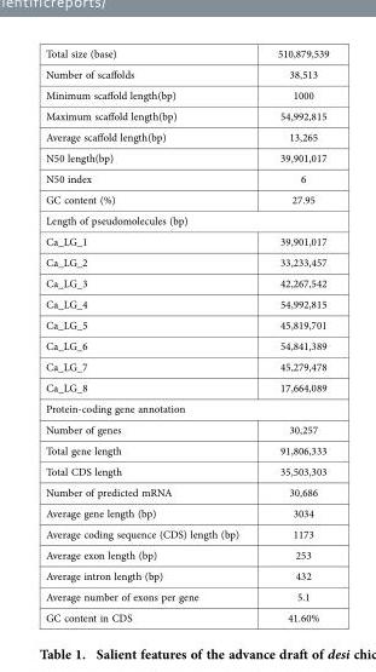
<table><tbody><tr><td>Total size (base)</td><td>510,879,539</td></tr><tr><td>Number of scaffolds</td><td>38,513</td></tr><tr><td>Minimum scaffold length(bp)</td><td>1000</td></tr><tr><td>Maximum scaffold length(bp)</td><td>54,992,815</td></tr><tr><td>Average scaffold length(bp)</td><td>13,265</td></tr><tr><td>N50 length(bp)</td><td>39,901,017</td></tr><tr><td>N50 index</td><td>6</td></tr><tr><td>GC content (%)</td><td>27.95</td></tr><tr><td colspan="2">Length of pseudomolecules (bp)</td></tr><tr><td>Ca_LG_1</td><td>39,901,017</td></tr><tr><td>Ca_LG_2</td><td>33,233,457</td></tr><tr><td>Ca_LG_3</td><td>42,267,542</td></tr><tr><td>Ca_LG_4</td><td>54,992,815</td></tr><tr><td>Ca_LG_5</td><td>45,819,701</td></tr><tr><td>Ca_LG_6</td><td>54,841,389</td></tr><tr><td>Ca_LG_7</td><td>45,279,478</td></tr><tr><td>Ca_LG_8</td><td>17,664,089</td></tr><tr><td colspan="2">Protein-coding gene annotation</td></tr><tr><td>Number of genes</td><td>30,257</td></tr><tr><td>Total gene length</td><td>91,806,333</td></tr><tr><td>Total CDS length</td><td>35,503,303</td></tr><tr><td>Number of predicted mRNA</td><td>30,686</td></tr><tr><td>Average gene length (bp)</td><td>3034</td></tr><tr><td>Average coding sequence (CDS) length (bp)</td><td>1173</td></tr><tr><td>Average exon length (bp)</td><td>253</td></tr><tr><td>Average intron length (bp)</td><td>432</td></tr><tr><td>Average number of exons per gene</td><td>5.1</td></tr><tr><td>GC content in CDS</td><td>41.60%</td></tr></tbody></table>